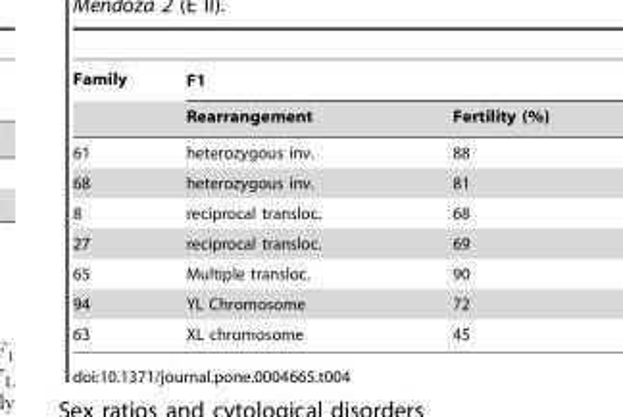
<table><thead><tr><td rowspan="2">Family</td><td colspan="2">F1</td></tr><tr><td>Rearrangement</td><td>Fertility (%)</td></tr></thead><tbody><tr><td>61</td><td>heterozygous inv.</td><td>88</td></tr><tr><td>68</td><td>heterozygous inv.</td><td>81</td></tr><tr><td>8</td><td>reciprocal transloc.</td><td>68</td></tr><tr><td>27</td><td>reciprocal transloc.</td><td>69</td></tr><tr><td>65</td><td>Multiple transloc.</td><td>90</td></tr><tr><td>94</td><td>YL Chromosome</td><td>72</td></tr><tr><td>63</td><td>XL chromosome</td><td>45</td></tr></tbody></table>